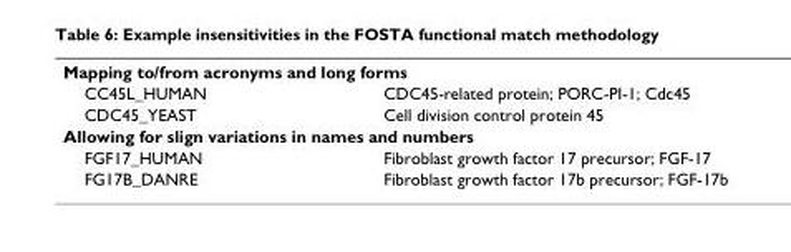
<table><tbody><tr><td colspan="2">Mapping to/from acronyms and long forms</td></tr><tr><td>CC45L_HUMAN</td><td>CDC45-related protein; PORC-PI-1; Cdc45</td></tr><tr><td>CDC45_YEAST</td><td>Cell division control protein 45</td></tr><tr><td colspan="2">Allowing for slign variations in names and numbers</td></tr><tr><td>FGF17_HUMAN</td><td>Fibroblast growth factor 17 precursor; FGF-17</td></tr><tr><td>FG17B_DANRE</td><td>Fibroblast growth factor 17b precursor; FGF-17b</td></tr></tbody></table>